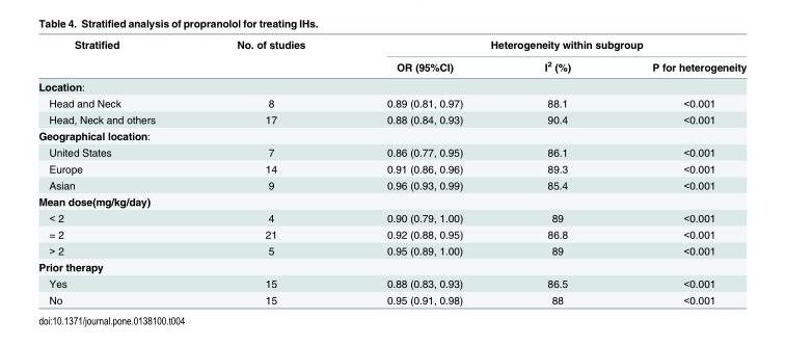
<table><thead><tr><td rowspan="2">Stratified</td><td rowspan="2">No. of studies</td><td colspan="3">Heterogeneity within subgroup</td></tr><tr><td>OR (95%CI)</td><td>I<sup>2</sup> (%)</td><td>P for heterogeneity</td></tr></thead><tbody><tr><td colspan="5">Location:</td></tr><tr><td>Head and Neck</td><td>8</td><td>0.89 (0.81, 0.97)</td><td>88.1</td><td>&lt;0.001</td></tr><tr><td>Head, Neck and others</td><td>17</td><td>0.88 (0.84, 0.93)</td><td>90.4</td><td>&lt;0.001</td></tr><tr><td colspan="5">Geographical location:</td></tr><tr><td>United States</td><td>7</td><td>0.86 (0.77, 0.95)</td><td>86.1</td><td>&lt;0.001</td></tr><tr><td>Europe</td><td>14</td><td>0.91 (0.86, 0.96)</td><td>89.3</td><td>&lt;0.001</td></tr><tr><td>Asian</td><td>9</td><td>0.96 (0.93, 0.99)</td><td>85.4</td><td>&lt;0.001</td></tr><tr><td colspan="5">Mean dose(mg/kg/day)</td></tr><tr><td>&lt; 2</td><td>4</td><td>0.90 (0.79, 1.00)</td><td>89</td><td>&lt;0.001</td></tr><tr><td>= 2</td><td>21</td><td>0.92 (0.88, 0.95)</td><td>86.8</td><td>&lt;0.001</td></tr><tr><td>&gt; 2</td><td>5</td><td>0.95 (0.89, 1.00)</td><td>89</td><td>&lt;0.001</td></tr><tr><td colspan="5">Prior therapy</td></tr><tr><td>Yes</td><td>15</td><td>0.88 (0.83, 0.93)</td><td>86.5</td><td>&lt;0.001</td></tr><tr><td>No</td><td>15</td><td>0.95 (0.91, 0.98)</td><td>88</td><td>&lt;0.001</td></tr></tbody></table>